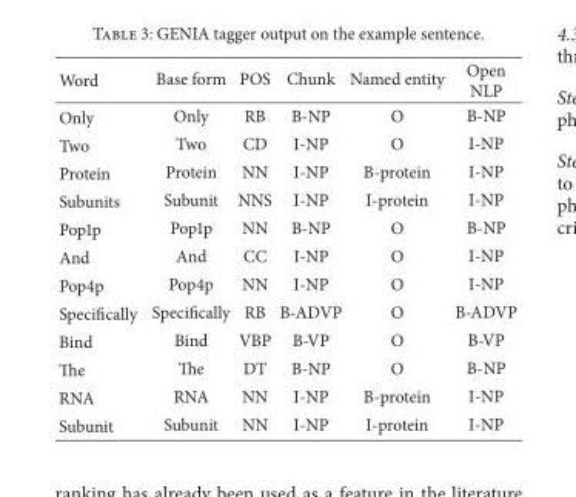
<table><thead><tr><td>Word</td><td>Base form</td><td>POS</td><td>Chunk</td><td>Named entity</td><td>Open NLP</td></tr></thead><tbody><tr><td>Only</td><td>Only</td><td>RB</td><td>B-NP</td><td>O</td><td>B-NP</td></tr><tr><td>Two</td><td>Two</td><td>CD</td><td>I-NP</td><td>O</td><td>I-NP</td></tr><tr><td>Protein</td><td>Protein</td><td>NN</td><td>I-NP</td><td>B-protein</td><td>I-NP</td></tr><tr><td>Subunits</td><td>Subunit</td><td>NNS</td><td>I-NP</td><td>I-protein</td><td>I-NP</td></tr><tr><td>Pop1p</td><td>Pop1p</td><td>NN</td><td>B-NP</td><td>O</td><td>B-NP</td></tr><tr><td>And</td><td>And</td><td>CC</td><td>I-NP</td><td>O</td><td>I-NP</td></tr><tr><td>Pop4p</td><td>Pop4p</td><td>NN</td><td>I-NP</td><td>O</td><td>I-NP</td></tr><tr><td>Specifically</td><td>Specifically</td><td>RB</td><td>B-ADVP</td><td>O</td><td>B-ADVP</td></tr><tr><td>Bind</td><td>Bind</td><td>VBP</td><td>B-VP</td><td>O</td><td>B-VP</td></tr><tr><td>The</td><td>The</td><td>DT</td><td>B-NP</td><td>O</td><td>B-NP</td></tr><tr><td>RNA</td><td>RNA</td><td>NN</td><td>I-NP</td><td>B-protein</td><td>I-NP</td></tr><tr><td>Subunit</td><td>Subunit</td><td>NN</td><td>I-NP</td><td>I-protein</td><td>I-NP</td></tr></tbody></table>